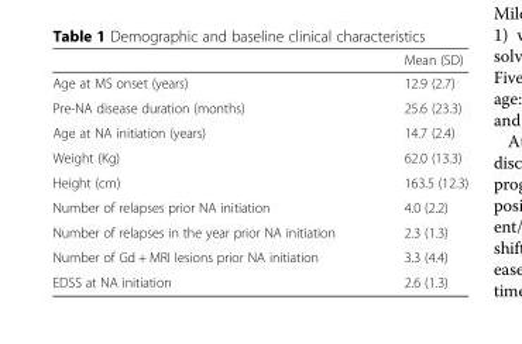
<table><thead><tr><td></td><td>Mean (SD)</td></tr></thead><tbody><tr><td>Age at MS onset (years)</td><td>12.9 (2.7)</td></tr><tr><td>Pre-NA disease duration (months)</td><td>25.6 (23.3)</td></tr><tr><td>Age at NA initiation (years)</td><td>14.7 (2.4)</td></tr><tr><td>Weight (Kg)</td><td>62.0 (13.3)</td></tr><tr><td>Height (cm)</td><td>163.5 (12.3)</td></tr><tr><td>Number of relapses prior NA initiation</td><td>4.0 (2.2)</td></tr><tr><td>Number of relapses in the year prior NA initiation</td><td>2.3 (1.3)</td></tr><tr><td>Number of Gd + MRI lesions prior NA initiation</td><td>3.3 (4.4)</td></tr><tr><td>EDSS at NA initiation</td><td>2.6 (1.3)</td></tr></tbody></table>